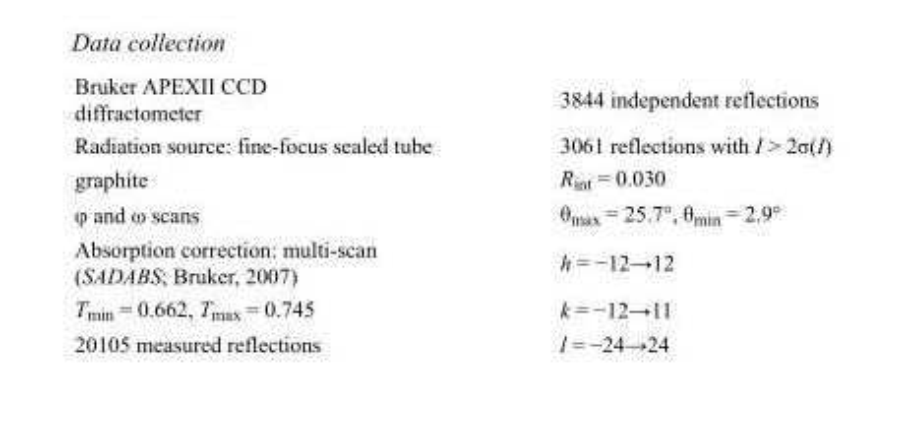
<table><tbody><tr><td>Bruker APEXII CCD diffractometer</td><td>3844 independent reflections</td></tr><tr><td>Radiation source: fine-focus sealed tube</td><td>3061 reflections with I &gt; 2σ(I)</td></tr><tr><td>graphite</td><td>R<sub>int</sub> = 0.030</td></tr><tr><td>φ and ω scans</td><td>θ<sub>max</sub> = 25.7°, θ<sub>min</sub> = 2.9°</td></tr><tr><td>Absorption correction: multi-scan (SADABS; Bruker, 2007)</td><td>h = −12→12</td></tr><tr><td>T<sub>min</sub> = 0.662, T<sub>max</sub> = 0.745</td><td>k = −12→11</td></tr><tr><td>20105 measured reflections</td><td>l = −24→24</td></tr></tbody></table>